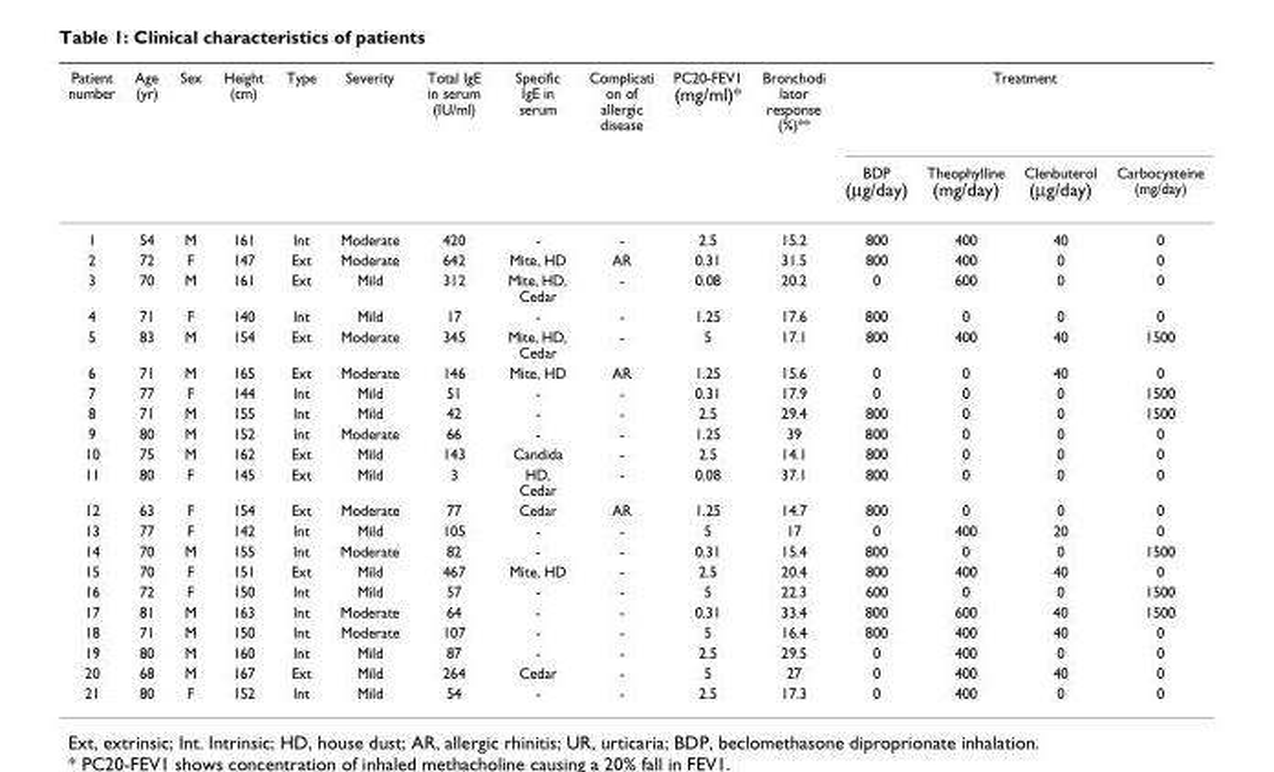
<table><thead><tr><td rowspan="2">Patient number</td><td rowspan="2">Age (yr)</td><td rowspan="2">Sex</td><td rowspan="2">Height (cm)</td><td rowspan="2">Type</td><td rowspan="2">Severity</td><td rowspan="2">Total IgE in serum (IU/ml)</td><td rowspan="2">Specific IgE in serum</td><td rowspan="2">Complicati on of allergic disease</td><td rowspan="2">PC20-FEV1 (mg/ml)*</td><td rowspan="2">Bronchodi lator response (%)**</td><td colspan="4">Treatment</td></tr><tr><td>BDP (μg/day)</td><td>Theophylline (mg/day)</td><td>Clenbuterol (μg/day)</td><td>Carbocysteine (mg/day)</td></tr></thead><tbody><tr><td>1</td><td>54</td><td>M</td><td>161</td><td>Int</td><td>Moderate</td><td>420</td><td>-</td><td>-</td><td>2.5</td><td>15.2</td><td>800</td><td>400</td><td>40</td><td>0</td></tr><tr><td>2</td><td>72</td><td>F</td><td>147</td><td>Ext</td><td>Moderate</td><td>642</td><td>Mite, HD</td><td>AR</td><td>0.31</td><td>31.5</td><td>800</td><td>400</td><td>0</td><td>0</td></tr><tr><td>3</td><td>70</td><td>M</td><td>161</td><td>Ext</td><td>Mild</td><td>312</td><td>Mite, HD, Cedar</td><td>-</td><td>0.08</td><td>20.2</td><td>0</td><td>600</td><td>0</td><td>0</td></tr><tr><td>4</td><td>71</td><td>F</td><td>140</td><td>Int</td><td>Mild</td><td>17</td><td>-</td><td>-</td><td>1.25</td><td>17.6</td><td>800</td><td>0</td><td>0</td><td>0</td></tr><tr><td>5</td><td>83</td><td>M</td><td>154</td><td>Ext</td><td>Moderate</td><td>345</td><td>Mite, HD, Cedar</td><td>-</td><td>5</td><td>17.1</td><td>800</td><td>400</td><td>40</td><td>1500</td></tr><tr><td>6</td><td>71</td><td>M</td><td>165</td><td>Ext</td><td>Moderate</td><td>146</td><td>Mite, HD</td><td>AR</td><td>1.25</td><td>15.6</td><td>0</td><td>0</td><td>40</td><td>0</td></tr><tr><td>7</td><td>77</td><td>F</td><td>144</td><td>Int</td><td>Mild</td><td>51</td><td>-</td><td>-</td><td>0.31</td><td>17.9</td><td>0</td><td>0</td><td>0</td><td>1500</td></tr><tr><td>8</td><td>71</td><td>M</td><td>155</td><td>Int</td><td>Mild</td><td>42</td><td>-</td><td>-</td><td>2.5</td><td>29.4</td><td>800</td><td>0</td><td>0</td><td>1500</td></tr><tr><td>9</td><td>80</td><td>M</td><td>152</td><td>Int</td><td>Moderate</td><td>66</td><td>-</td><td>-</td><td>1.25</td><td>39</td><td>800</td><td>0</td><td>0</td><td>0</td></tr><tr><td>10</td><td>75</td><td>M</td><td>162</td><td>Ext</td><td>Mild</td><td>143</td><td>Candida</td><td>-</td><td>2.5</td><td>14.1</td><td>800</td><td>0</td><td>0</td><td>0</td></tr><tr><td>11</td><td>80</td><td>F</td><td>145</td><td>Ext</td><td>Mild</td><td>3</td><td>HD, Cedar</td><td>-</td><td>0.08</td><td>37.1</td><td>800</td><td>0</td><td>0</td><td>0</td></tr><tr><td>12</td><td>63</td><td>F</td><td>154</td><td>Ext</td><td>Moderate</td><td>77</td><td>Cedar</td><td>AR</td><td>1.25</td><td>14.7</td><td>800</td><td>0</td><td>0</td><td>0</td></tr><tr><td>13</td><td>77</td><td>F</td><td>142</td><td>Int</td><td>Mild</td><td>105</td><td>-</td><td>-</td><td>5</td><td>17</td><td>0</td><td>400</td><td>20</td><td>0</td></tr><tr><td>14</td><td>70</td><td>M</td><td>155</td><td>Int</td><td>Moderate</td><td>82</td><td>-</td><td>-</td><td>0.31</td><td>15.4</td><td>800</td><td>0</td><td>0</td><td>1500</td></tr><tr><td>15</td><td>70</td><td>F</td><td>151</td><td>Ext</td><td>Mild</td><td>467</td><td>Mite, HD</td><td>-</td><td>2.5</td><td>20.4</td><td>800</td><td>400</td><td>40</td><td>0</td></tr><tr><td>16</td><td>72</td><td>F</td><td>150</td><td>Int</td><td>Mild</td><td>57</td><td>-</td><td>-</td><td>5</td><td>22.3</td><td>600</td><td>0</td><td>0</td><td>1500</td></tr><tr><td>17</td><td>81</td><td>M</td><td>163</td><td>Int</td><td>Moderate</td><td>64</td><td>-</td><td>-</td><td>0.31</td><td>33.4</td><td>800</td><td>600</td><td>40</td><td>1500</td></tr><tr><td>18</td><td>71</td><td>M</td><td>150</td><td>Int</td><td>Moderate</td><td>107</td><td>-</td><td>-</td><td>5</td><td>16.4</td><td>800</td><td>400</td><td>40</td><td>0</td></tr><tr><td>19</td><td>80</td><td>M</td><td>160</td><td>Int</td><td>Mild</td><td>87</td><td>-</td><td>-</td><td>2.5</td><td>29.5</td><td>0</td><td>400</td><td>0</td><td>0</td></tr><tr><td>20</td><td>68</td><td>M</td><td>167</td><td>Ext</td><td>Mild</td><td>264</td><td>Cedar</td><td>-</td><td>5</td><td>27</td><td>0</td><td>400</td><td>40</td><td>0</td></tr><tr><td>21</td><td>80</td><td>F</td><td>152</td><td>Int</td><td>Mild</td><td>54</td><td>-</td><td>-</td><td>2.5</td><td>17.3</td><td>0</td><td>400</td><td>0</td><td>0</td></tr></tbody></table>